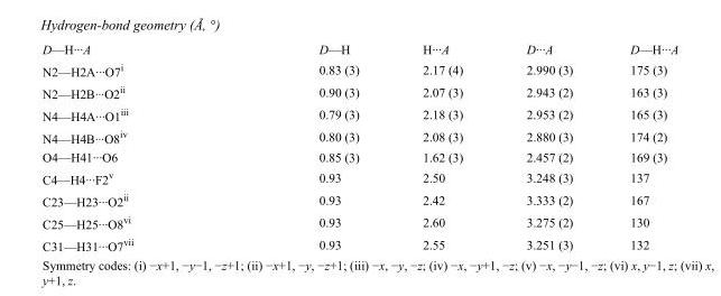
<table><tbody><tr><td>D—H···A</td><td>D—H</td><td>H···A</td><td>D···A</td><td>D—H···A</td></tr><tr><td>N2—H2A···O7<sup>i</sup></td><td>0.83 (3)</td><td>2.17 (4)</td><td>2.990 (3)</td><td>175 (3)</td></tr><tr><td>N2—H2B···O2<sup>ii</sup></td><td>0.90 (3)</td><td>2.07 (3)</td><td>2.943 (2)</td><td>163 (3)</td></tr><tr><td>N4—H4A···O1<sup>iii</sup></td><td>0.79 (3)</td><td>2.18 (3)</td><td>2.953 (2)</td><td>165 (3)</td></tr><tr><td>N4—H4B···O8<sup>iv</sup></td><td>0.80 (3)</td><td>2.08 (3)</td><td>2.880 (3)</td><td>174 (2)</td></tr><tr><td>O4—H41···O6</td><td>0.85 (3)</td><td>1.62 (3)</td><td>2.457 (2)</td><td>169 (3)</td></tr><tr><td>C4—H4···F2<sup>v</sup></td><td>0.93</td><td>2.50</td><td>3.248 (3)</td><td>137</td></tr><tr><td>C23—H23···O2<sup>ii</sup></td><td>0.93</td><td>2.42</td><td>3.333 (2)</td><td>167</td></tr><tr><td>C25—H25···O8<sup>vi</sup></td><td>0.93</td><td>2.60</td><td>3.275 (2)</td><td>130</td></tr><tr><td>C31—H31···O7<sup>vii</sup></td><td>0.93</td><td>2.55</td><td>3.251 (3)</td><td>132</td></tr></tbody></table>